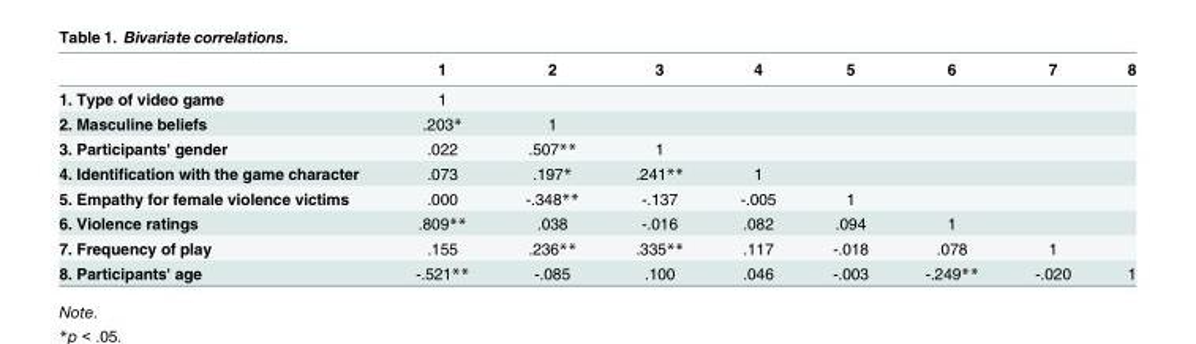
<table><thead><tr><td></td><td>1</td><td>2</td><td>3</td><td>4</td><td>5</td><td>6</td><td>7</td><td>8</td></tr></thead><tbody><tr><td>1. Type of video game</td><td>1</td><td></td><td></td><td></td><td></td><td></td><td></td><td></td></tr><tr><td>2. Masculine beliefs</td><td>.203*</td><td>1</td><td></td><td></td><td></td><td></td><td></td><td></td></tr><tr><td>3. Participants&#x27; gender</td><td>.022</td><td>.507**</td><td>1</td><td></td><td></td><td></td><td></td><td></td></tr><tr><td>4. Identification with the game character</td><td>.073</td><td>.197*</td><td>.241**</td><td>1</td><td></td><td></td><td></td><td></td></tr><tr><td>5. Empathy for female violence victims</td><td>.000</td><td>-.348**</td><td>-.137</td><td>-.005</td><td>1</td><td></td><td></td><td></td></tr><tr><td>6. Violence ratings</td><td>.809**</td><td>.038</td><td>-.016</td><td>.082</td><td>.094</td><td>1</td><td></td><td></td></tr><tr><td>7. Frequency of play</td><td>.155</td><td>.236**</td><td>.335**</td><td>.117</td><td>-.018</td><td>.078</td><td>1</td><td></td></tr><tr><td>8. Participants&#x27; age</td><td>-.521**</td><td>-.085</td><td>.100</td><td>.046</td><td>-.003</td><td>-.249**</td><td>-.020</td><td>1</td></tr></tbody></table>